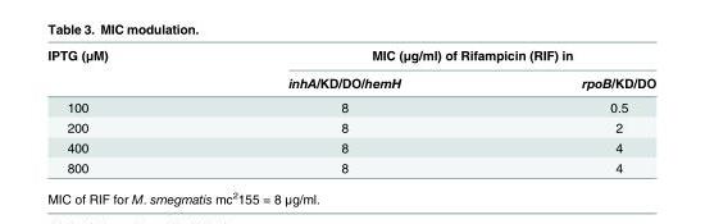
<table><thead><tr><td rowspan="2">IPTG (μM)</td><td colspan="2">MIC (μg/ml) of Rifampicin (RIF) in</td></tr><tr><td>inhA/KD/DO/hemH</td><td>rpoB/KD/DO</td></tr></thead><tbody><tr><td>100</td><td>8</td><td>0.5</td></tr><tr><td>200</td><td>8</td><td>2</td></tr><tr><td>400</td><td>8</td><td>4</td></tr><tr><td>800</td><td>8</td><td>4</td></tr></tbody></table>